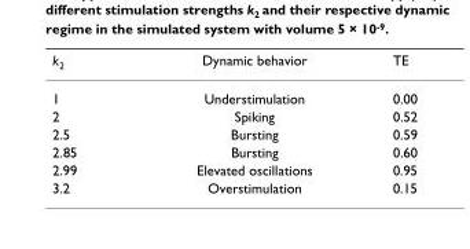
<table><thead><tr><td>k<sub>2</sub></td><td>Dynamic behavior</td><td>TE</td></tr></thead><tbody><tr><td>1</td><td>Understimulation</td><td>0.00</td></tr><tr><td>2</td><td>Spiking</td><td>0.52</td></tr><tr><td>2.5</td><td>Bursting</td><td>0.59</td></tr><tr><td>2.85</td><td>Bursting</td><td>0.60</td></tr><tr><td>2.99</td><td>Elevated oscillations</td><td>0.95</td></tr><tr><td>3.2</td><td>Overstimulation</td><td>0.15</td></tr></tbody></table>